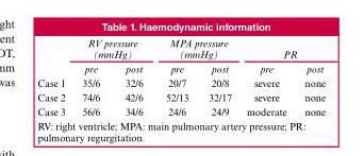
<table><thead><tr><td rowspan="2"></td><td colspan="2">RV pressure (mmHg)</td><td colspan="2">MPA pressure (mmHg)</td><td colspan="2">PR</td></tr><tr><td>pre</td><td>post</td><td>pre</td><td>post</td><td>pre</td><td>post</td></tr></thead><tbody><tr><td>Case 1</td><td>35/6</td><td>32/6</td><td>20/7</td><td>20/8</td><td>severe</td><td>none</td></tr><tr><td>Case 2</td><td>74/6</td><td>42/6</td><td>52/13</td><td>32/17</td><td>severe</td><td>none</td></tr><tr><td>Case 3</td><td>56/6</td><td>34/6</td><td>24/6</td><td>24/9</td><td>moderate</td><td>none</td></tr></tbody></table>